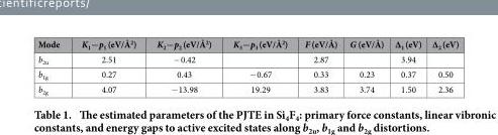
<table><thead><tr><td>Mode</td><td>K<sub>1</sub>−p<sub>1</sub> (eV/Å<sup>2</sup>)</td><td>K<sub>2</sub>−p<sub>2</sub> (eV/Å<sup>2</sup>)</td><td>K<sub>3</sub>−p<sub>3</sub> (eV/Å<sup>2</sup>)</td><td>F (eV/Å)</td><td>G (eV/Å)</td><td>Δ<sub>1</sub> (eV)</td><td>Δ<sub>2</sub> (eV)</td></tr></thead><tbody><tr><td>b<sub>2u</sub></td><td>2.51</td><td>− 0.42</td><td></td><td>2.87</td><td></td><td>3.94</td><td></td></tr><tr><td>b<sub>1g</sub></td><td>0.27</td><td>0.43</td><td>− 0.67</td><td>0.33</td><td>0.23</td><td>0.37</td><td>0.50</td></tr><tr><td>b<sub>2g</sub></td><td>4.07</td><td>− 13.98</td><td>19.29</td><td>3.83</td><td>3.74</td><td>1.50</td><td>2.36</td></tr></tbody></table>